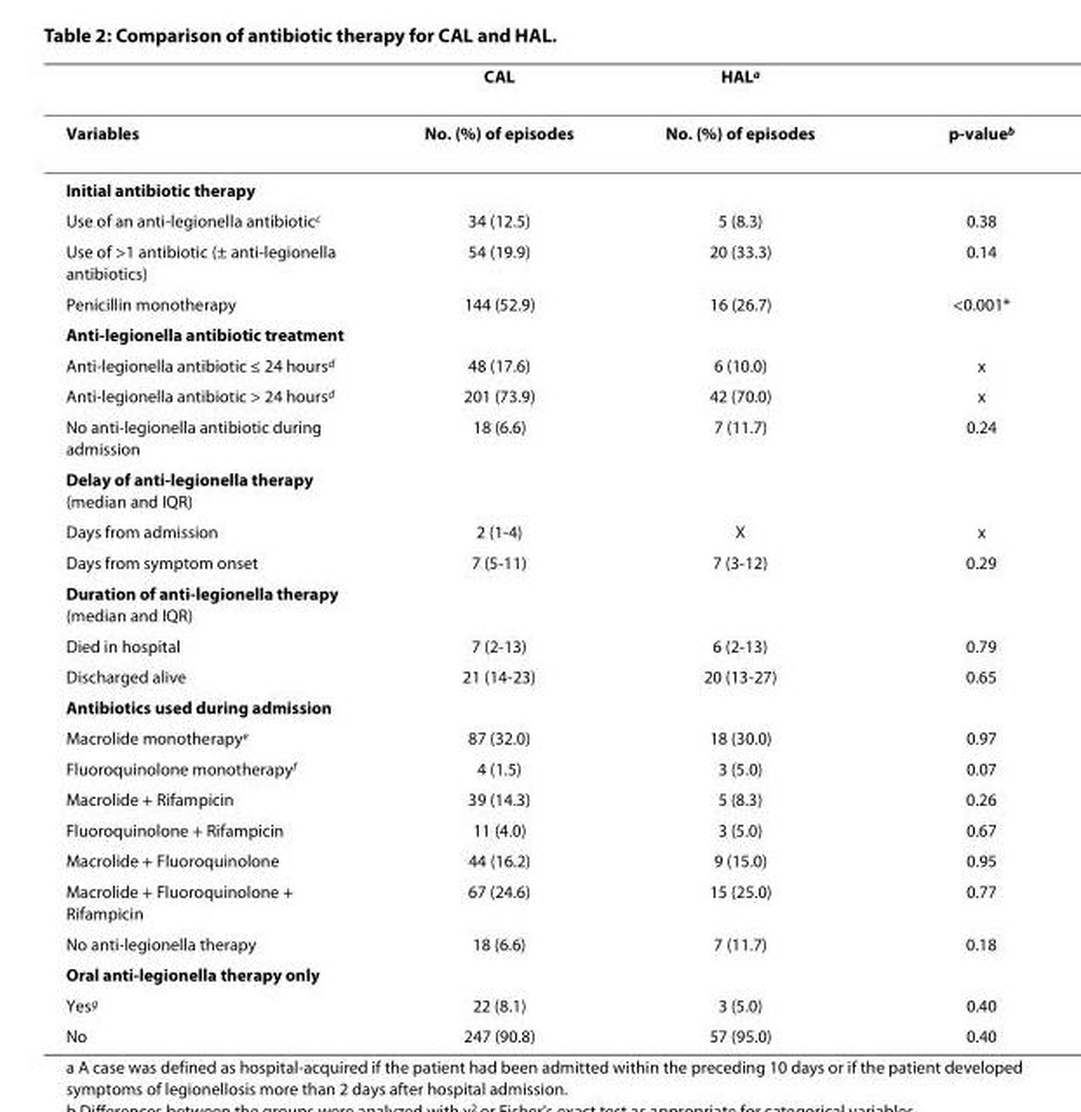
<table><thead><tr><td></td><td>CAL</td><td>HAL<sup>a</sup></td><td></td></tr></thead><tbody><tr><td>Variables</td><td>No. (%) of episodes</td><td>No. (%) of episodes</td><td>p-value<sup>b</sup></td></tr><tr><td colspan="4">Initial antibiotic therapy</td></tr><tr><td>Use of an anti-legionella antibiotic<sup>c</sup></td><td>34 (12.5)</td><td>5 (8.3)</td><td>0.38</td></tr><tr><td>Use of &gt;1 antibiotic (± anti-legionella antibiotics)</td><td>54 (19.9)</td><td>20 (33.3)</td><td>0.14</td></tr><tr><td>Penicillin monotherapy</td><td>144 (52.9)</td><td>16 (26.7)</td><td>&lt;0.001*</td></tr><tr><td colspan="4">Anti-legionella antibiotic treatment</td></tr><tr><td>Anti-legionella antibiotic ≤ 24 hours<sup>d</sup></td><td>48 (17.6)</td><td>6 (10.0)</td><td>x</td></tr><tr><td>Anti-legionella antibiotic &gt; 24 hours<sup>d</sup></td><td>201 (73.9)</td><td>42 (70.0)</td><td>x</td></tr><tr><td>No anti-legionella antibiotic during admission</td><td>18 (6.6)</td><td>7 (11.7)</td><td>0.24</td></tr><tr><td colspan="4">Delay of anti-legionella therapy (median and IQR)</td></tr><tr><td>Days from admission</td><td>2 (1-4)</td><td>X</td><td>x</td></tr><tr><td>Days from symptom onset</td><td>7 (5-11)</td><td>7 (3-12)</td><td>0.29</td></tr><tr><td colspan="4">Duration of anti-legionella therapy (median and IQR)</td></tr><tr><td>Died in hospital</td><td>7 (2-13)</td><td>6 (2-13)</td><td>0.79</td></tr><tr><td>Discharged alive</td><td>21 (14-23)</td><td>20 (13-27)</td><td>0.65</td></tr><tr><td colspan="4">Antibiotics used during admission</td></tr><tr><td>Macrolide monotherapy<sup>e</sup></td><td>87 (32.0)</td><td>18 (30.0)</td><td>0.97</td></tr><tr><td>Fluoroquinolone monotherapy<sup>f</sup></td><td>4 (1.5)</td><td>3 (5.0)</td><td>0.07</td></tr><tr><td>Macrolide + Rifampicin</td><td>39 (14.3)</td><td>5 (8.3)</td><td>0.26</td></tr><tr><td>Fluoroquinolone + Rifampicin</td><td>11 (4.0)</td><td>3 (5.0)</td><td>0.67</td></tr><tr><td>Macrolide + Fluoroquinolone</td><td>44 (16.2)</td><td>9 (15.0)</td><td>0.95</td></tr><tr><td>Macrolide + Fluoroquinolone + Rifampicin</td><td>67 (24.6)</td><td>15 (25.0)</td><td>0.77</td></tr><tr><td>No anti-legionella therapy</td><td>18 (6.6)</td><td>7 (11.7)</td><td>0.18</td></tr><tr><td colspan="4">Oral anti-legionella therapy only</td></tr><tr><td>Yes<sup>g</sup></td><td>22 (8.1)</td><td>3 (5.0)</td><td>0.40</td></tr><tr><td>No</td><td>247 (90.8)</td><td>57 (95.0)</td><td>0.40</td></tr></tbody></table>